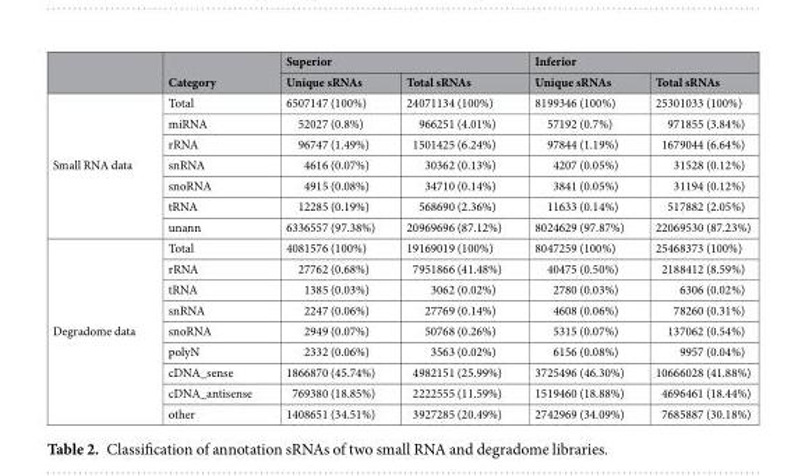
<table><thead><tr><td rowspan="2"></td><td rowspan="2">Category</td><td colspan="2">Superior</td><td colspan="2">Inferior</td></tr><tr><td>Unique sRNAs</td><td>Total sRNAs</td><td>Unique sRNAs</td><td>Total sRNAs</td></tr></thead><tbody><tr><td rowspan="7">Small RNA data</td><td>Total</td><td>6507147 (100%)</td><td>24071134 (100%)</td><td>8199346 (100%)</td><td>25301033 (100%)</td></tr><tr><td>miRNA</td><td>52027 (0.8%)</td><td>966251 (4.01%)</td><td>57192 (0.7%)</td><td>971855 (3.84%)</td></tr><tr><td>rRNA</td><td>96747 (1.49%)</td><td>1501425 (6.24%)</td><td>97844 (1.19%)</td><td>1679044 (6.64%)</td></tr><tr><td>snRNA</td><td>4616 (0.07%)</td><td>30362 (0.13%)</td><td>4207 (0.05%)</td><td>31528 (0.12%)</td></tr><tr><td>snoRNA</td><td>4915 (0.08%)</td><td>34710 (0.14%)</td><td>3841 (0.05%)</td><td>31194 (0.12%)</td></tr><tr><td>tRNA</td><td>12285 (0.19%)</td><td>568690 (2.36%)</td><td>11633 (0.14%)</td><td>517882 (2.05%)</td></tr><tr><td>unann</td><td>6336557 (97.38%)</td><td>20969696 (87.12%)</td><td>8024629 (97.87%)</td><td>22069530 (87.23%)</td></tr><tr><td rowspan="9">Degradome data</td><td>Total</td><td>4081576 (100%)</td><td>19169019 (100%)</td><td>8047259 (100%)</td><td>25468373 (100%)</td></tr><tr><td>rRNA</td><td>27762 (0.68%)</td><td>7951866 (41.48%)</td><td>40475 (0.50%)</td><td>2188412 (8.59%)</td></tr><tr><td>tRNA</td><td>1385 (0.03%)</td><td>3062 (0.02%)</td><td>2780 (0.03%)</td><td>6306 (0.02%)</td></tr><tr><td>snRNA</td><td>2247 (0.06%)</td><td>27769 (0.14%)</td><td>4608 (0.06%)</td><td>78260 (0.31%)</td></tr><tr><td>snoRNA</td><td>2949 (0.07%)</td><td>50768 (0.26%)</td><td>5315 (0.07%)</td><td>137062 (0.54%)</td></tr><tr><td>polyN</td><td>2332 (0.06%)</td><td>3563 (0.02%)</td><td>6156 (0.08%)</td><td>9957 (0.04%)</td></tr><tr><td>cDNA_sense</td><td>1866870 (45.74%)</td><td>4982151 (25.99%)</td><td>3725496 (46.30%)</td><td>10666028 (41.88%)</td></tr><tr><td>cDNA_antisense</td><td>769380 (18.85%)</td><td>2222555 (11.59%)</td><td>1519460 (18.88%)</td><td>4696461 (18.44%)</td></tr><tr><td>other</td><td>1408651 (34.51%)</td><td>3927285 (20.49%)</td><td>2742969 (34.09%)</td><td>7685887 (30.18%)</td></tr></tbody></table>